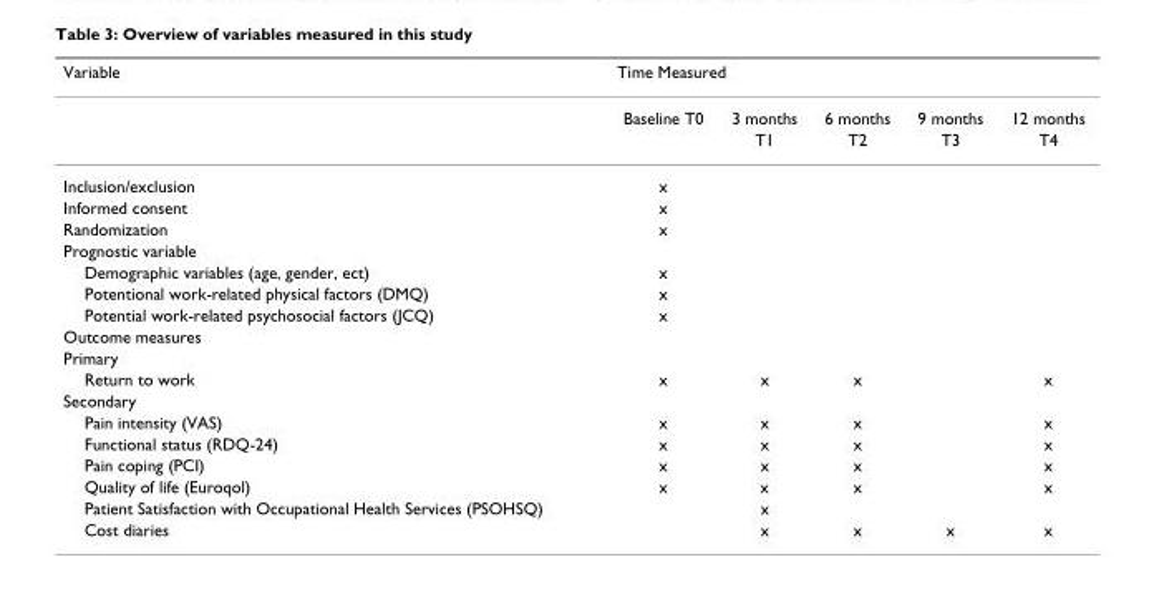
<table><thead><tr><td rowspan="2">Variable</td><td colspan="5">Time Measured</td></tr><tr><td>Baseline T0</td><td>3 months</td><td>6 months</td><td>9 months</td><td>12 months</td></tr></thead><tbody><tr><td></td><td></td><td>T1</td><td>T2</td><td>T3</td><td>T4</td></tr><tr><td>Inclusion/exclusion</td><td>x</td><td></td><td></td><td></td><td></td></tr><tr><td>Informed consent</td><td>x</td><td></td><td></td><td></td><td></td></tr><tr><td>Randomization</td><td>x</td><td></td><td></td><td></td><td></td></tr><tr><td colspan="6">Prognostic variable</td></tr><tr><td>Demographic variables (age, gender, ect)</td><td>x</td><td></td><td></td><td></td><td></td></tr><tr><td>Potentional work-related physical factors (DMQ)</td><td>x</td><td></td><td></td><td></td><td></td></tr><tr><td>Potential work-related psychosocial factors (JCQ)</td><td>x</td><td></td><td></td><td></td><td></td></tr><tr><td colspan="6">Outcome measures</td></tr><tr><td colspan="6">Primary</td></tr><tr><td>Return to work</td><td>x</td><td>x</td><td>x</td><td></td><td>x</td></tr><tr><td colspan="6">Secondary</td></tr><tr><td>Pain intensity (VAS)</td><td>x</td><td>x</td><td>x</td><td></td><td>x</td></tr><tr><td>Functional status (RDQ-24)</td><td>x</td><td>x</td><td>x</td><td></td><td>x</td></tr><tr><td>Pain coping (PCI)</td><td>x</td><td>x</td><td>x</td><td></td><td>x</td></tr><tr><td>Quality of life (Euroqol)</td><td>x</td><td>x</td><td>x</td><td></td><td>x</td></tr><tr><td>Patient Satisfaction with Occupational Health Services (PSOHSQ)</td><td></td><td>x</td><td></td><td></td><td></td></tr><tr><td>Cost diaries</td><td></td><td>x</td><td>x</td><td>x</td><td>x</td></tr></tbody></table>